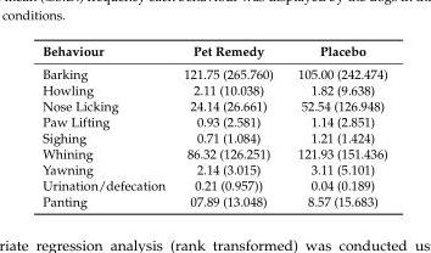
<table><thead><tr><td>Behaviour</td><td>Pet Remedy</td><td>Placebo</td></tr></thead><tbody><tr><td>Barking</td><td>121.75 (265.760)</td><td>105.00 (242.474)</td></tr><tr><td>Howling</td><td>2.11 (10.038)</td><td>1.82 (9.638)</td></tr><tr><td>Nose Licking</td><td>24.14 (26.661)</td><td>52.54 (126.948)</td></tr><tr><td>Paw Lifting</td><td>0.93 (2.581)</td><td>1.14 (2.851)</td></tr><tr><td>Sighing</td><td>0.71 (1.084)</td><td>1.21 (1.424)</td></tr><tr><td>Whining</td><td>86.32 (126.251)</td><td>121.93 (151.436)</td></tr><tr><td>Yawning</td><td>2.14 (3.015)</td><td>3.11 (5.101)</td></tr><tr><td>Urination/defecation</td><td>0.21 (0.957))</td><td>0.04 (0.189)</td></tr><tr><td>Panting</td><td>07.89 (13.048)</td><td>8.57 (15.683)</td></tr></tbody></table>